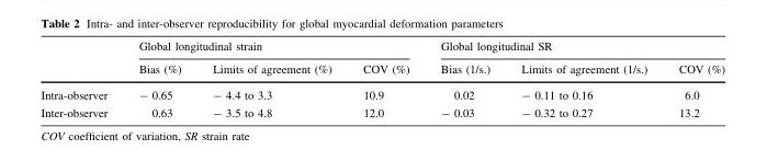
<table><thead><tr><td rowspan="2"></td><td colspan="3">Global longitudinal strain</td><td colspan="3">Global longitudinal SR</td></tr><tr><td>Bias (%)</td><td>Limits of agreement (%)</td><td>COV (%)</td><td>Bias (1/s.)</td><td>Limits of agreement (1/s.)</td><td>COV (%)</td></tr></thead><tbody><tr><td>Intra-observer</td><td>- 0.65</td><td>- 4.4 to 3.3</td><td>10.9</td><td>0.02</td><td>- 0.11 to 0.16</td><td>6.0</td></tr><tr><td>Inter-observer</td><td>0.63</td><td>- 3.5 to 4.8</td><td>12.0</td><td>- 0.03</td><td>- 0.32 to 0.27</td><td>13.2</td></tr></tbody></table>